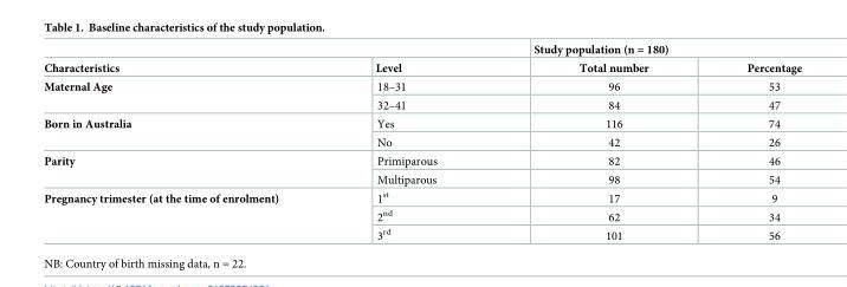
<table><thead><tr><td rowspan="2">Characteristics</td><td rowspan="2">Level</td><td colspan="2">Study population (n = 180)</td></tr><tr><td>Total number</td><td>Percentage</td></tr></thead><tbody><tr><td rowspan="2">Maternal Age</td><td>18–31</td><td>96</td><td>53</td></tr><tr><td>32–41</td><td>84</td><td>47</td></tr><tr><td rowspan="2">Born in Australia</td><td>Yes</td><td>116</td><td>74</td></tr><tr><td>No</td><td>42</td><td>26</td></tr><tr><td rowspan="2">Parity</td><td>Primiparous</td><td>82</td><td>46</td></tr><tr><td>Multiparous</td><td>98</td><td>54</td></tr><tr><td rowspan="3">Pregnancy trimester (at the time of enrolment)</td><td>1<sup>st</sup></td><td>17</td><td>9</td></tr><tr><td>2<sup>nd</sup></td><td>62</td><td>34</td></tr><tr><td>3<sup>rd</sup></td><td>101</td><td>56</td></tr></tbody></table>